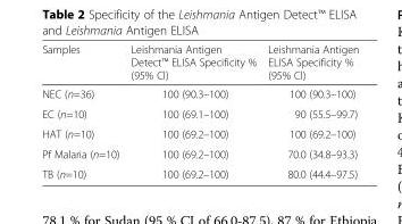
<table><thead><tr><td>Samples</td><td>Leishmania Antigen Detect™ ELISA Specificity % (95% Cl)</td><td>Leishmania Antigen ELISA Specificity % (95% Cl)</td></tr></thead><tbody><tr><td>NEC (n=36)</td><td>100 (90.3–100)</td><td>100 (90.3–100)</td></tr><tr><td>EC (n=10)</td><td>100 (69.1–100)</td><td>90 (55.5–99.7)</td></tr><tr><td>HAT (n=10)</td><td>100 (69.2–100)</td><td>100 (69.2–100)</td></tr><tr><td>Pf Malaria (n=10)</td><td>100 (69.2–100)</td><td>70.0 (34.8–93.3)</td></tr><tr><td>TB (n=10)</td><td>100 (69.2–100)</td><td>80.0 (44.4–97.5)</td></tr></tbody></table>